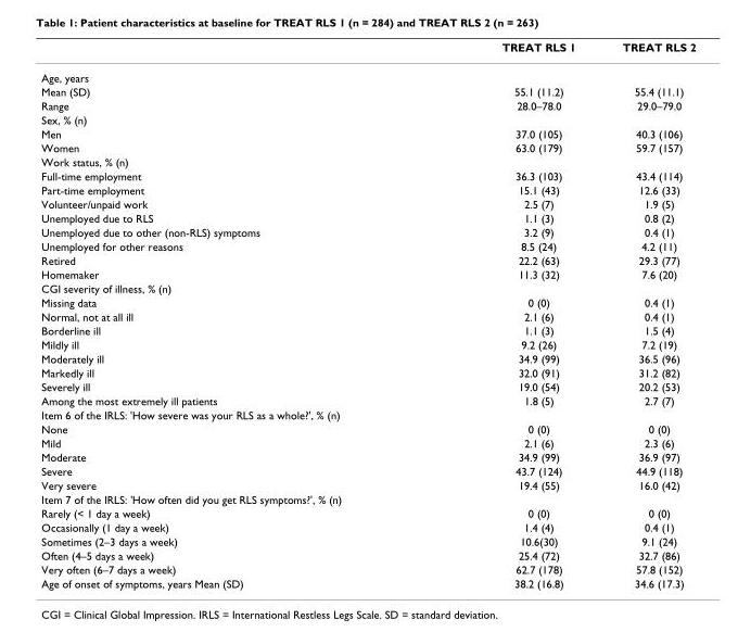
<table><thead><tr><td></td><td>TREAT RLS 1</td><td>TREAT RLS 2</td></tr></thead><tbody><tr><td colspan="3">Age, years</td></tr><tr><td>Mean (SD)</td><td>55.1 (11.2)</td><td>55.4 (11.1)</td></tr><tr><td>Range</td><td>28.0–78.0</td><td>29.0–79.0</td></tr><tr><td colspan="3">Sex, % (n)</td></tr><tr><td>Men</td><td>37.0 (105)</td><td>40.3 (106)</td></tr><tr><td>Women</td><td>63.0 (179)</td><td>59.7 (157)</td></tr><tr><td colspan="3">Work status, % (n)</td></tr><tr><td>Full-time employment</td><td>36.3 (103)</td><td>43.4 (114)</td></tr><tr><td>Part-time employment</td><td>15.1 (43)</td><td>12.6 (33)</td></tr><tr><td>Volunteer/unpaid work</td><td>2.5 (7)</td><td>1.9 (5)</td></tr><tr><td>Unemployed due to RLS</td><td>1.1 (3)</td><td>0.8 (2)</td></tr><tr><td>Unemployed due to other (non-RLS) symptoms</td><td>3.2 (9)</td><td>0.4 (1)</td></tr><tr><td>Unemployed for other reasons</td><td>8.5 (24)</td><td>4.2 (11)</td></tr><tr><td>Retired</td><td>22.2 (63)</td><td>29.3 (77)</td></tr><tr><td>Homemaker</td><td>11.3 (32)</td><td>7.6 (20)</td></tr><tr><td colspan="3">CGI severity of illness, % (n)</td></tr><tr><td>Missing data</td><td>0 (0)</td><td>0.4 (1)</td></tr><tr><td>Normal, not at all ill</td><td>2.1 (6)</td><td>0.4 (1)</td></tr><tr><td>Borderline ill</td><td>1.1 (3)</td><td>1.5 (4)</td></tr><tr><td>Mildly ill</td><td>9.2 (26)</td><td>7.2 (19)</td></tr><tr><td>Moderately ill</td><td>34.9 (99)</td><td>36.5 (96)</td></tr><tr><td>Markedly ill</td><td>32.0 (91)</td><td>31.2 (82)</td></tr><tr><td>Severely ill</td><td>19.0 (54)</td><td>20.2 (53)</td></tr><tr><td>Among the most extremely ill patients</td><td>1.8 (5)</td><td>2.7 (7)</td></tr><tr><td colspan="3">Item 6 of the IRLS: &#x27;How severe was your RLS as a whole?&#x27;, % (n)</td></tr><tr><td>None</td><td>0 (0)</td><td>0 (0)</td></tr><tr><td>Mild</td><td>2.1 (6)</td><td>2.3 (6)</td></tr><tr><td>Moderate</td><td>34.9 (99)</td><td>36.9 (97)</td></tr><tr><td>Severe</td><td>43.7 (124)</td><td>44.9 (118)</td></tr><tr><td>Very severe</td><td>19.4 (55)</td><td>16.0 (42)</td></tr><tr><td colspan="3">Item 7 of the IRLS: &#x27;How often did you get RLS symptoms?&#x27;, % (n)</td></tr><tr><td>Rarely (&lt; 1 day a week)</td><td>0 (0)</td><td>0 (0)</td></tr><tr><td>Occasionally (1 day a week)</td><td>1.4 (4)</td><td>0.4 (1)</td></tr><tr><td>Sometimes (2–3 days a week)</td><td>10.6(30)</td><td>9.1 (24)</td></tr><tr><td>Often (4–5 days a week)</td><td>25.4 (72)</td><td>32.7 (86)</td></tr><tr><td>Very often (6–7 days a week)</td><td>62.7 (178)</td><td>57.8 (152)</td></tr><tr><td>Age of onset of symptoms, years Mean (SD)</td><td>38.2 (16.8)</td><td>34.6 (17.3)</td></tr></tbody></table>